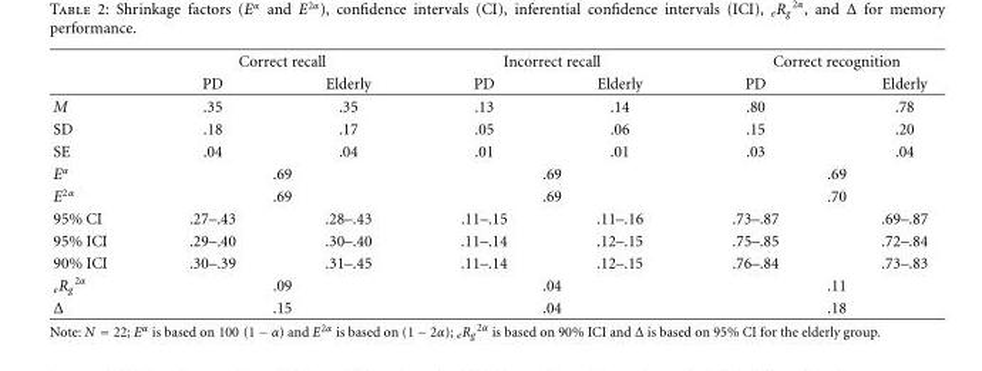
<table><thead><tr><td rowspan="2"></td><td colspan="2">Correct recall</td><td colspan="2">Incorrect recall</td><td colspan="2">Correct recognition</td></tr><tr><td>PD</td><td>Elderly</td><td>PD</td><td>Elderly</td><td>PD</td><td>Elderly</td></tr></thead><tbody><tr><td>M</td><td>.35</td><td>.35</td><td>.13</td><td>.14</td><td>.80</td><td>.78</td></tr><tr><td>SD</td><td>.18</td><td>.17</td><td>.05</td><td>.06</td><td>.15</td><td>.20</td></tr><tr><td>SE</td><td>.04</td><td>.04</td><td>.01</td><td>.01</td><td>.03</td><td>.04</td></tr><tr><td>E<sup>α</sup></td><td colspan="2">.69</td><td colspan="2">.69</td><td colspan="2">.69</td></tr><tr><td>E<sup>2α</sup></td><td colspan="2">.69</td><td colspan="2">.69</td><td colspan="2">.70</td></tr><tr><td>95% CI</td><td>.27–.43</td><td>.28–.43</td><td>.11–.15</td><td>.11–.16</td><td>.73–.87</td><td>.69–.87</td></tr><tr><td>95% ICI</td><td>.29–.40</td><td>.30–.40</td><td>.11–.14</td><td>.12–.15</td><td>.75–.85</td><td>.72–.84</td></tr><tr><td>90% ICI</td><td>.30–.39</td><td>.31–.45</td><td>.11–.14</td><td>.12–.15</td><td>.76–.84</td><td>.73–.83</td></tr><tr><td><sub>e</sub>R<sub>g</sub> <sup>2α</sup></td><td colspan="2">.09</td><td colspan="2">.04</td><td colspan="2">.11</td></tr><tr><td>Δ</td><td colspan="2">.15</td><td colspan="2">.04</td><td colspan="2">.18</td></tr></tbody></table>